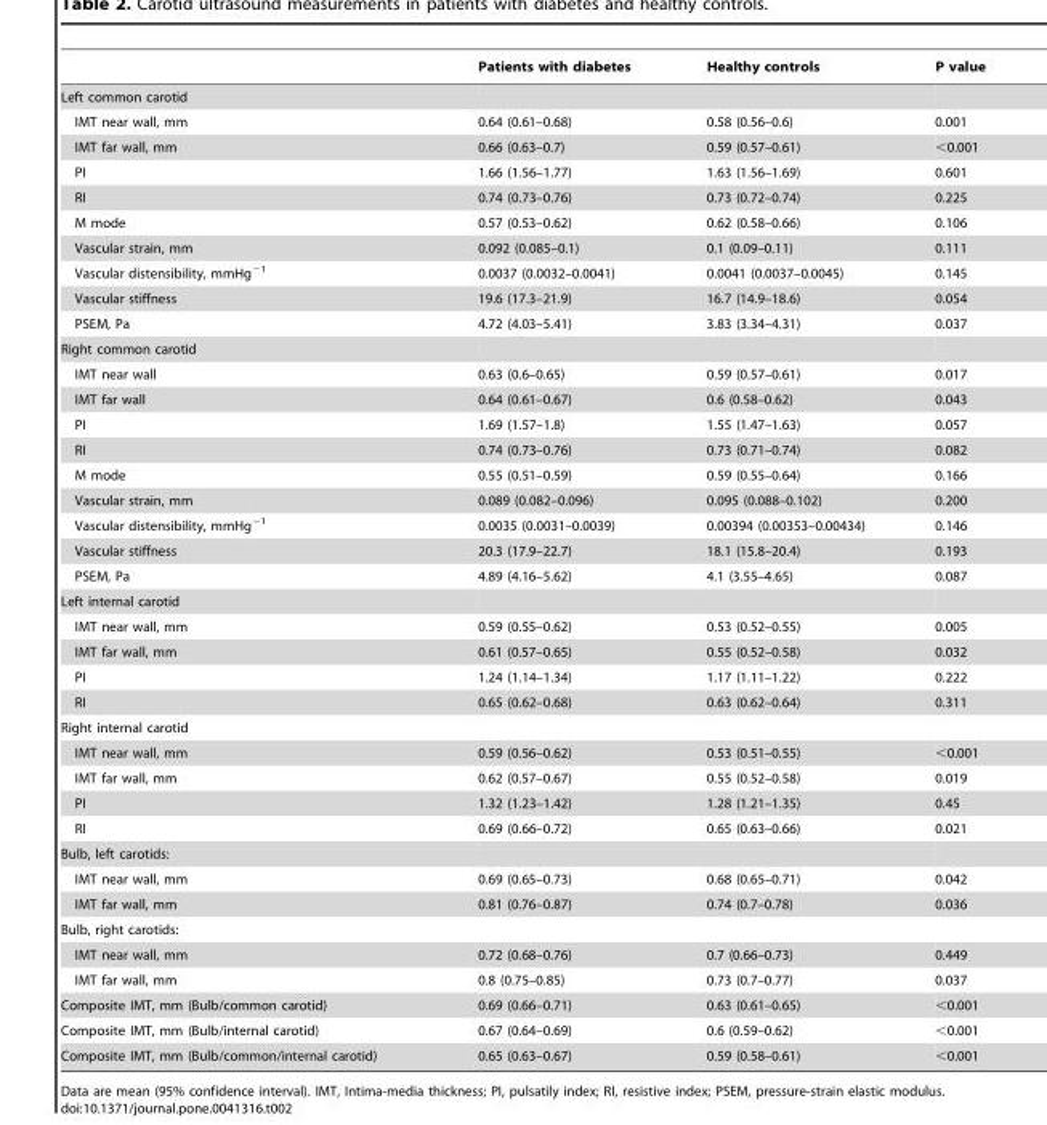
<table><thead><tr><td></td><td>Patients with diabetes</td><td>Healthy controls</td><td>P value</td></tr></thead><tbody><tr><td colspan="4">Left common carotid</td></tr><tr><td>IMT near wall, mm</td><td>0.64 (0.61–0.68)</td><td>0.58 (0.56–0.6)</td><td>0.001</td></tr><tr><td>IMT far wall, mm</td><td>0.66 (0.63–0.7)</td><td>0.59 (0.57–0.61)</td><td>&lt;0.001</td></tr><tr><td>PI</td><td>1.66 (1.56–1.77)</td><td>1.63 (1.56–1.69)</td><td>0.601</td></tr><tr><td>RI</td><td>0.74 (0.73–0.76)</td><td>0.73 (0.72–0.74)</td><td>0.225</td></tr><tr><td>M mode</td><td>0.57 (0.53–0.62)</td><td>0.62 (0.58–0.66)</td><td>0.106</td></tr><tr><td>Vascular strain, mm</td><td>0.092 (0.085–0.1)</td><td>0.1 (0.09–0.11)</td><td>0.111</td></tr><tr><td>Vascular distensibility, mmHg<sup>−1</sup></td><td>0.0037 (0.0032–0.0041)</td><td>0.0041 (0.0037–0.0045)</td><td>0.145</td></tr><tr><td>Vascular stiffness</td><td>19.6 (17.3–21.9)</td><td>16.7 (14.9–18.6)</td><td>0.054</td></tr><tr><td>PSEM, Pa</td><td>4.72 (4.03–5.41)</td><td>3.83 (3.34–4.31)</td><td>0.037</td></tr><tr><td colspan="4">Right common carotid</td></tr><tr><td>IMT near wall</td><td>0.63 (0.6–0.65)</td><td>0.59 (0.57–0.61)</td><td>0.017</td></tr><tr><td>IMT far wall</td><td>0.64 (0.61–0.67)</td><td>0.6 (0.58–0.62)</td><td>0.043</td></tr><tr><td>PI</td><td>1.69 (1.57–1.8)</td><td>1.55 (1.47–1.63)</td><td>0.057</td></tr><tr><td>RI</td><td>0.74 (0.73–0.76)</td><td>0.73 (0.71–0.74)</td><td>0.082</td></tr><tr><td>M mode</td><td>0.55 (0.51–0.59)</td><td>0.59 (0.55–0.64)</td><td>0.166</td></tr><tr><td>Vascular strain, mm</td><td>0.089 (0.082–0.096)</td><td>0.095 (0.088–0.102)</td><td>0.200</td></tr><tr><td>Vascular distensibility, mmHg<sup>−1</sup></td><td>0.0035 (0.0031–0.0039)</td><td>0.00394 (0.00353–0.00434)</td><td>0.146</td></tr><tr><td>Vascular stiffness</td><td>20.3 (17.9–22.7)</td><td>18.1 (15.8–20.4)</td><td>0.193</td></tr><tr><td>PSEM, Pa</td><td>4.89 (4.16–5.62)</td><td>4.1 (3.55–4.65)</td><td>0.087</td></tr><tr><td colspan="4">Left internal carotid</td></tr><tr><td>IMT near wall, mm</td><td>0.59 (0.55–0.62)</td><td>0.53 (0.52–0.55)</td><td>0.005</td></tr><tr><td>IMT far wall, mm</td><td>0.61 (0.57–0.65)</td><td>0.55 (0.52–0.58)</td><td>0.032</td></tr><tr><td>PI</td><td>1.24 (1.14–1.34)</td><td>1.17 (1.11–1.22)</td><td>0.222</td></tr><tr><td>RI</td><td>0.65 (0.62–0.68)</td><td>0.63 (0.62–0.64)</td><td>0.311</td></tr><tr><td colspan="4">Right internal carotid</td></tr><tr><td>IMT near wall, mm</td><td>0.59 (0.56–0.62)</td><td>0.53 (0.51–0.55)</td><td>&lt;0.001</td></tr><tr><td>IMT far wall, mm</td><td>0.62 (0.57–0.67)</td><td>0.55 (0.52–0.58)</td><td>0.019</td></tr><tr><td>PI</td><td>1.32 (1.23–1.42)</td><td>1.28 (1.21–1.35)</td><td>0.45</td></tr><tr><td>RI</td><td>0.69 (0.66–0.72)</td><td>0.65 (0.63–0.66)</td><td>0.021</td></tr><tr><td colspan="4">Bulb, left carotids:</td></tr><tr><td>IMT near wall, mm</td><td>0.69 (0.65–0.73)</td><td>0.68 (0.65–0.71)</td><td>0.042</td></tr><tr><td>IMT far wall, mm</td><td>0.81 (0.76–0.87)</td><td>0.74 (0.7–0.78)</td><td>0.036</td></tr><tr><td colspan="4">Bulb, right carotids:</td></tr><tr><td>IMT near wall, mm</td><td>0.72 (0.68–0.76)</td><td>0.7 (0.66–0.73)</td><td>0.449</td></tr><tr><td>IMT far wall, mm</td><td>0.8 (0.75–0.85)</td><td>0.73 (0.7–0.77)</td><td>0.037</td></tr><tr><td>Composite IMT, mm (Bulb/common carotid)</td><td>0.69 (0.66–0.71)</td><td>0.63 (0.61–0.65)</td><td>&lt;0.001</td></tr><tr><td>Composite IMT, mm (Bulb/internal carotid)</td><td>0.67 (0.64–0.69)</td><td>0.6 (0.59–0.62)</td><td>&lt;0.001</td></tr><tr><td>Composite IMT, mm (Bulb/common/internal carotid)</td><td>0.65 (0.63–0.67)</td><td>0.59 (0.58–0.61)</td><td>&lt;0.001</td></tr></tbody></table>